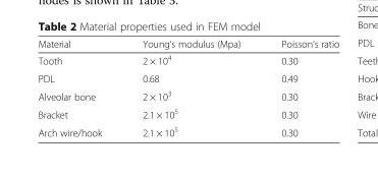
<table><thead><tr><td>Material</td><td>Young’s modulus (Mpa)</td><td>Poisson’s ratio</td></tr></thead><tbody><tr><td>Tooth</td><td>2 × 10<sup>4</sup></td><td>0.30</td></tr><tr><td>PDL</td><td>0.68</td><td>0.49</td></tr><tr><td>Alveolar bone</td><td>2 × 10<sup>3</sup></td><td>0.30</td></tr><tr><td>Bracket</td><td>2.1 × 10<sup>5</sup></td><td>0.30</td></tr><tr><td>Arch wire/hook</td><td>2.1 × 10<sup>5</sup></td><td>0.30</td></tr></tbody></table>